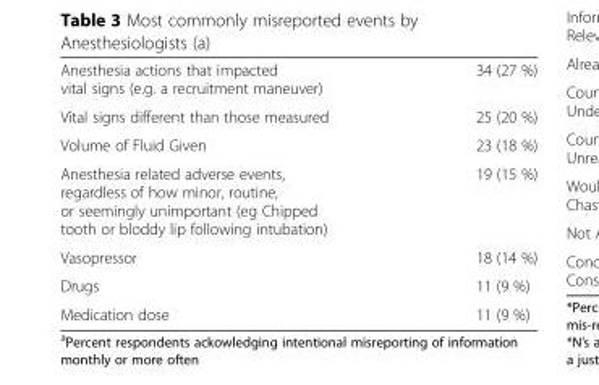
<table><tbody><tr><td>Anesthesia actions that impacted vital signs (e.g. a recruitment maneuver)</td><td>34 (27 %)</td></tr><tr><td>Vital signs different than those measured</td><td>25 (20 %)</td></tr><tr><td>Volume of Fluid Given</td><td>23 (18 %)</td></tr><tr><td>Anesthesia related adverse events, regardless of how minor, routine, or seemingly unimportant (eg Chipped tooth or bloddy lip following intubation)</td><td>19 (15 %)</td></tr><tr><td>Vasopressor</td><td>18 (14 %)</td></tr><tr><td>Drugs</td><td>11 (9 %)</td></tr><tr><td>Medication dose</td><td>11 (9 %)</td></tr></tbody></table>